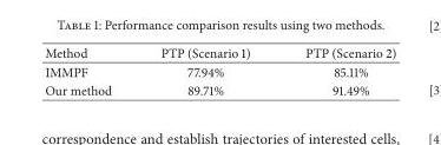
<table><thead><tr><td>Method</td><td>PTP (Scenario 1)</td><td>PTP (Scenario 2)</td></tr></thead><tbody><tr><td>IMMPF</td><td>77.94%</td><td>85.11%</td></tr><tr><td>Our method</td><td>89.71%</td><td>91.49%</td></tr></tbody></table>